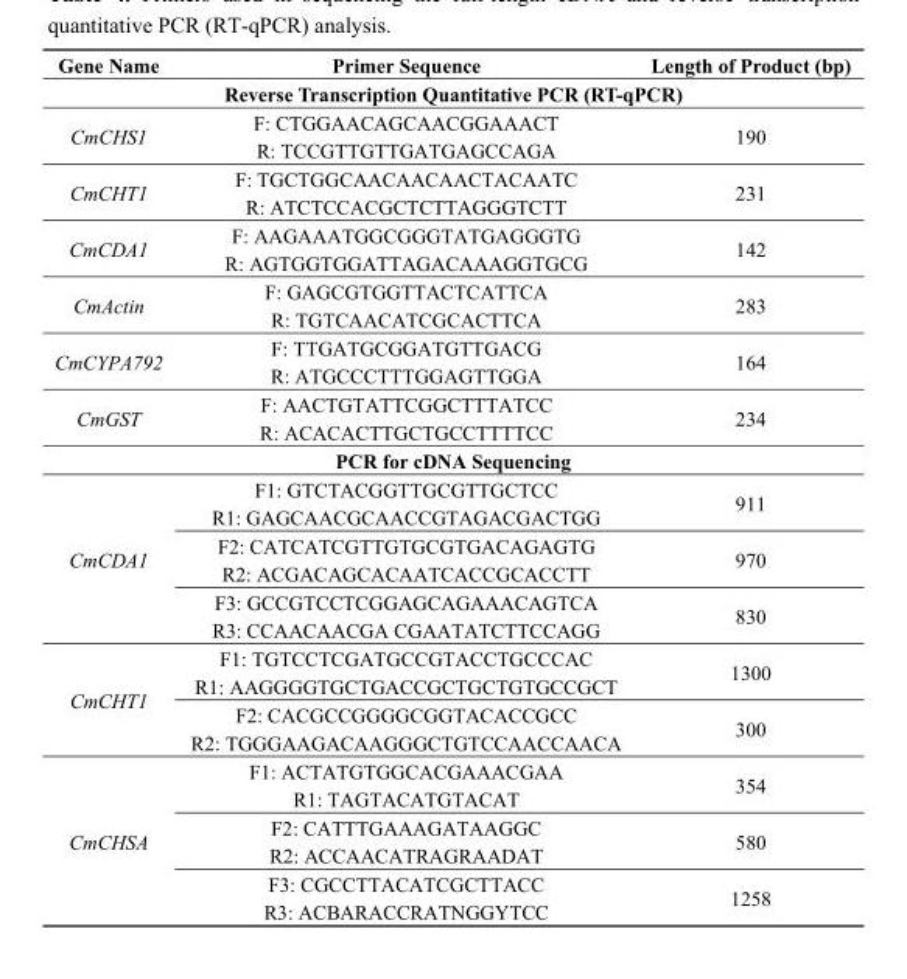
<table><thead><tr><td>Gene Name</td><td>Primer Sequence</td><td>Length of Product (bp)</td></tr></thead><tbody><tr><td colspan="3">Reverse Transcription Quantitative PCR (RT-qPCR)</td></tr><tr><td rowspan="2">CmCHS1</td><td>F: CTGGAACAGCAACGGAAACT</td><td rowspan="2">190</td></tr><tr><td>R: TCCGTTGTTGATGAGCCAGA</td></tr><tr><td rowspan="2">CmCHT1</td><td>F: TGCTGGCAACAACAACTACAATC</td><td rowspan="2">231</td></tr><tr><td>R: ATCTCCACGCTCTTAGGGTCTT</td></tr><tr><td rowspan="2">CmCDA1</td><td>F: AAGAAATGGCGGGTATGAGGGTG</td><td rowspan="2">142</td></tr><tr><td>R: AGTGGTGGATTAGACAAAGGTGCG</td></tr><tr><td rowspan="2">CmActin</td><td>F: GAGCGTGGTTACTCATTCA</td><td rowspan="2">283</td></tr><tr><td>R: TGTCAACATCGCACTTCA</td></tr><tr><td rowspan="2">CmCYPA792</td><td>F: TTGATGCGGATGTTGACG</td><td rowspan="2">164</td></tr><tr><td>R: ATGCCCTTTGGAGTTGGA</td></tr><tr><td rowspan="2">CmGST</td><td>F: AACTGTATTCGGCTTTATCC</td><td rowspan="2">234</td></tr><tr><td>R: ACACACTTGCTGCCTTTTCC</td></tr><tr><td colspan="3">PCR for cDNA Sequencing</td></tr><tr><td rowspan="6">CmCDA1</td><td>F1: GTCTACGGTTGCGTTGCTCC</td><td rowspan="2">911</td></tr><tr><td>R1: GAGCAACGCAACCGTAGACGACTGG</td></tr><tr><td>F2: CATCATCGTTGTGCGTGACAGAGTG</td><td rowspan="2">970</td></tr><tr><td>R2: ACGACAGCACAATCACCGCACCTT</td></tr><tr><td>F3: GCCGTCCTCGGAGCAGAAACAGTCA</td><td rowspan="2">830</td></tr><tr><td>R3: CCAACAACGA CGAATATCTTCCAGG</td></tr><tr><td rowspan="4">CmCHT1</td><td>F1: TGTCCTCGATGCCGTACCTGCCCAC</td><td rowspan="2">1300</td></tr><tr><td>R1: AAGGGGTGCTGACCGCTGCTGTGCCGCT</td></tr><tr><td>F2: CACGCCGGGGCGGTACACCGCC</td><td rowspan="2">300</td></tr><tr><td>R2: TGGGAAGACAAGGGCTGTCCAACCAACA</td></tr><tr><td rowspan="6">CmCHSA</td><td>F1: ACTATGTGGCACGAAACGAA</td><td rowspan="2">354</td></tr><tr><td>R1: TAGTACATGTACAT</td></tr><tr><td>F2: CATTTGAAAGATAAGGC</td><td rowspan="2">580</td></tr><tr><td>R2: ACCAACATRAGRAADAT</td></tr><tr><td>F3: CGCCTTACATCGCTTACC</td><td rowspan="2">1258</td></tr><tr><td>R3: ACBARACCRATNGGYTCC</td></tr></tbody></table>